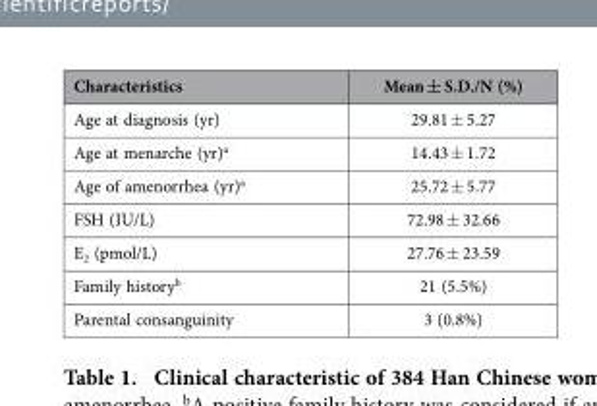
<table><thead><tr><td>Characteristics</td><td>Mean ± S.D./N (%)</td></tr></thead><tbody><tr><td>Age at diagnosis (yr)</td><td>29.81 ± 5.27</td></tr><tr><td>Age at menarche (yr)<sup>a</sup></td><td>14.43 ± 1.72</td></tr><tr><td>Age of amenorrhea (yr)<sup>a</sup></td><td>25.72 ± 5.77</td></tr><tr><td>FSH (IU/L)</td><td>72.98 ± 32.66</td></tr><tr><td>E<sub>2</sub> (pmol/L)</td><td>27.76 ± 23.59</td></tr><tr><td>Family history<sup>b</sup></td><td>21 (5.5%)</td></tr><tr><td>Parental consanguinity</td><td>3 (0.8%)</td></tr></tbody></table>